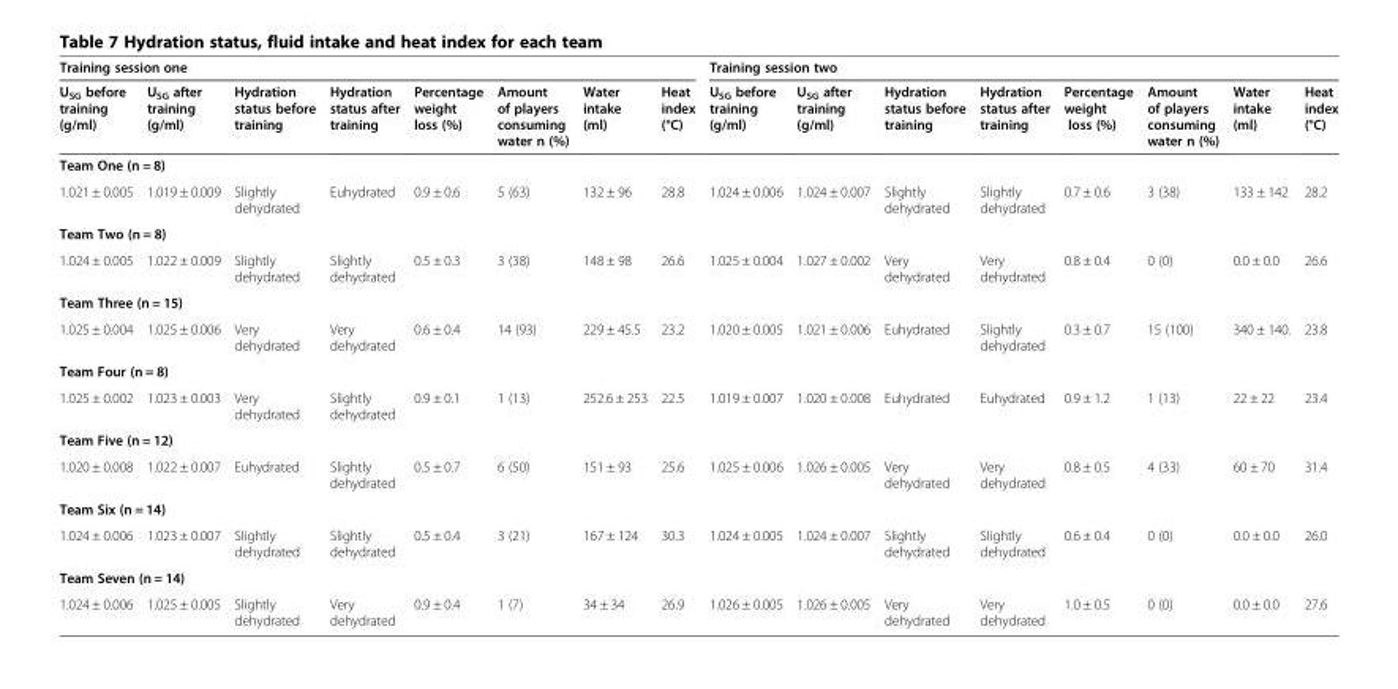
<table><thead><tr><td colspan="8">Training session one</td><td colspan="8">Training session two</td></tr><tr><td>U<sub>SG</sub> before training (g/ml)</td><td>U<sub>SG</sub> after training (g/ml)</td><td>Hydration status before training</td><td>Hydration status after training</td><td>Percentage weight loss (%)</td><td>Amount of players consuming water n (%)</td><td>Water intake (ml)</td><td>Heat index (°C)</td><td>U<sub>SG</sub> before training (g/ml)</td><td>U<sub>SG</sub> after training (g/ml)</td><td>Hydration status before training</td><td>Hydration status after training</td><td>Percentage weight loss (%)</td><td>Amount of players consuming water n (%)</td><td>Water intake (ml)</td><td>Heat index (°C)</td></tr></thead><tbody><tr><td colspan="16">Team One (n = 8)</td></tr><tr><td>1.021 ± 0.005</td><td>1.019 ± 0.009</td><td>Slightly dehydrated</td><td>Euhydrated</td><td>0.9 ± 0.6</td><td>5 (63)</td><td>132 ± 96</td><td>28.8</td><td>1.024 ± 0.006</td><td>1.024 ± 0.007</td><td>Slightly dehydrated</td><td>Slightly dehydrated</td><td>0.7 ± 0.6</td><td>3 (38)</td><td>133 ± 142</td><td>28.2</td></tr><tr><td colspan="16">Team Two (n = 8)</td></tr><tr><td>1.024 ± 0.005</td><td>1.022 ± 0.009</td><td>Slightly dehydrated</td><td>Slightly dehydrated</td><td>0.5 ± 0.3</td><td>3 (38)</td><td>148 ± 98</td><td>26.6</td><td>1.025 ± 0.004</td><td>1.027 ± 0.002</td><td>Very dehydrated</td><td>Very dehydrated</td><td>0.8 ± 0.4</td><td>0 (0)</td><td>0.0 ± 0.0</td><td>26.6</td></tr><tr><td colspan="16">Team Three (n = 15)</td></tr><tr><td>1.025 ± 0.004</td><td>1.025 ± 0.006</td><td>Very dehydrated</td><td>Very dehydrated</td><td>0.6 ± 0.4</td><td>14 (93)</td><td>229 ± 45.5</td><td>23.2</td><td>1.020 ± 0.005</td><td>1.021 ± 0.006</td><td>Euhydrated</td><td>Slightly dehydrated</td><td>0.3 ± 0.7</td><td>15 (100)</td><td>340 ± 140.</td><td>23.8</td></tr><tr><td colspan="16">Team Four (n = 8)</td></tr><tr><td>1.025 ± 0.002</td><td>1.023 ± 0.003</td><td>Very dehydrated</td><td>Slightly dehydrated</td><td>0.9 ± 0.1</td><td>1 (13)</td><td>252.6 ± 253</td><td>22.5</td><td>1.019 ± 0.007</td><td>1.020 ± 0.008</td><td>Euhydrated</td><td>Euhydrated</td><td>0.9 ± 1.2</td><td>1 (13)</td><td>22 ± 22</td><td>23.4</td></tr><tr><td colspan="16">Team Five (n = 12)</td></tr><tr><td>1.020 ± 0.008</td><td>1.022 ± 0.007</td><td>Euhydrated</td><td>Slightly dehydrated</td><td>0.5 ± 0.7</td><td>6 (50)</td><td>151 ± 93</td><td>25.6</td><td>1.025 ± 0.006</td><td>1.026 ± 0.005</td><td>Very dehydrated</td><td>Very dehydrated</td><td>0.8 ± 0.5</td><td>4 (33)</td><td>60 ± 70</td><td>31.4</td></tr><tr><td colspan="16">Team Six (n = 14)</td></tr><tr><td>1.024 ± 0.006</td><td>1.023 ± 0.007</td><td>Slightly dehydrated</td><td>Slightly dehydrated</td><td>0.5 ± 0.4</td><td>3 (21)</td><td>167 ± 124</td><td>30.3</td><td>1.024 ± 0.005</td><td>1.024 ± 0.007</td><td>Slightly dehydrated</td><td>Slightly dehydrated</td><td>0.6 ± 0.4</td><td>0 (0)</td><td>0.0 ± 0.0</td><td>26.0</td></tr><tr><td colspan="16">Team Seven (n = 14)</td></tr><tr><td>1.024 ± 0.006</td><td>1.025 ± 0.005</td><td>Slightly dehydrated</td><td>Very dehydrated</td><td>0.9 ± 0.4</td><td>1 (7)</td><td>34 ± 34</td><td>26.9</td><td>1.026 ± 0.005</td><td>1.026 ± 0.005</td><td>Very dehydrated</td><td>Very dehydrated</td><td>1.0 ± 0.5</td><td>0 (0)</td><td>0.0 ± 0.0</td><td>27.6</td></tr></tbody></table>